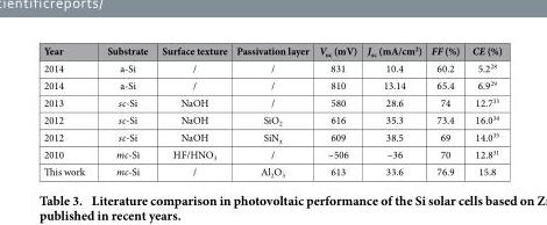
<table><thead><tr><td>Year</td><td>Substrate</td><td>Surface texture</td><td>Passivation layer</td><td>V<sub>oc</sub> (mV)</td><td>J<sub>sc</sub> (mA/cm<sup>2</sup>)</td><td>FF (%)</td><td>CE (%)</td></tr></thead><tbody><tr><td>2014</td><td>a-Si</td><td>/</td><td>/</td><td>831</td><td>10.4</td><td>60.2</td><td>5.2<sup>28</sup></td></tr><tr><td>2014</td><td>a-Si</td><td>/</td><td>/</td><td>810</td><td>13.14</td><td>65.4</td><td>6.9<sup>29</sup></td></tr><tr><td>2013</td><td>sc-Si</td><td>NaOH</td><td>/</td><td>580</td><td>28.6</td><td>74</td><td>12.7<sup>33</sup></td></tr><tr><td>2012</td><td>sc-Si</td><td>NaOH</td><td>SiO<sub>2</sub></td><td>616</td><td>35.3</td><td>73.4</td><td>16.0<sup>34</sup></td></tr><tr><td>2012</td><td>sc-Si</td><td>NaOH</td><td>SiN<sub>x</sub></td><td>609</td><td>38.5</td><td>69</td><td>14.0<sup>35</sup></td></tr><tr><td>2010</td><td>mc-Si</td><td>HF/HNO<sub>3</sub></td><td>/</td><td>~506</td><td>~36</td><td>70</td><td>12.8<sup>31</sup></td></tr><tr><td>This work</td><td>mc-Si</td><td>/</td><td>Al<sub>2</sub>O<sub>3</sub></td><td>613</td><td>33.6</td><td>76.9</td><td>15.8</td></tr></tbody></table>